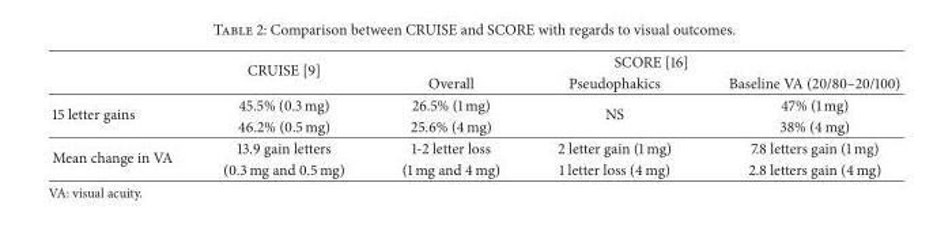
<table><thead><tr><td rowspan="2"></td><td rowspan="2">CRUISE [9]</td><td colspan="3">SCORE [16]</td></tr><tr><td>Overall</td><td>Pseudophakics</td><td>Baseline VA (20/80–20/100)</td></tr></thead><tbody><tr><td rowspan="2">15 letter gains</td><td>45.5% (0.3 mg)</td><td>26.5% (1 mg)</td><td rowspan="2">NS</td><td>47% (1 mg)</td></tr><tr><td>46.2% (0.5 mg)</td><td>25.6% (4 mg)</td><td>38% (4 mg)</td></tr><tr><td rowspan="2">Mean change in VA</td><td>13.9 gain letters</td><td>1-2 letter loss</td><td>2 letter gain (1 mg)</td><td>7.8 letters gain (1 mg)</td></tr><tr><td>(0.3 mg and 0.5 mg)</td><td>(1 mg and 4 mg)</td><td>1 letter loss (4 mg)</td><td>2.8 letters gain (4 mg)</td></tr></tbody></table>